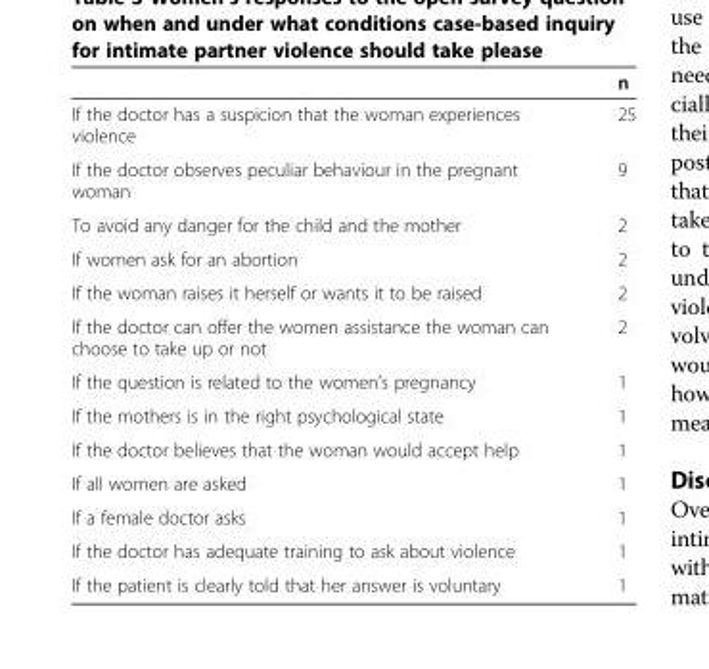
<table><thead><tr><td></td><td>n</td></tr></thead><tbody><tr><td>If the doctor has a suspicion that the woman experiences violence</td><td>25</td></tr><tr><td>If the doctor observes peculiar behaviour in the pregnant woman</td><td>9</td></tr><tr><td>To avoid any danger for the child and the mother</td><td>2</td></tr><tr><td>If women ask for an abortion</td><td>2</td></tr><tr><td>If the woman raises it herself or wants it to be raised</td><td>2</td></tr><tr><td>If the doctor can offer the women assistance the woman can choose to take up or not</td><td>2</td></tr><tr><td>If the question is related to the women’s pregnancy</td><td>1</td></tr><tr><td>If the mothers is in the right psychological state</td><td>1</td></tr><tr><td>If the doctor believes that the woman would accept help</td><td>1</td></tr><tr><td>If all women are asked</td><td>1</td></tr><tr><td>If a female doctor asks</td><td>1</td></tr><tr><td>If the doctor has adequate training to ask about violence</td><td>1</td></tr><tr><td>If the patient is clearly told that her answer is voluntary</td><td>1</td></tr></tbody></table>